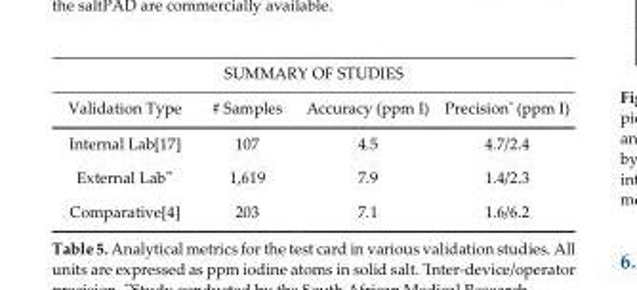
<table><tbody><tr><td colspan="4">SUMMARY OF STUDIES</td></tr><tr><td>Validation Type</td><td># Samples</td><td>Accuracy (ppm I)</td><td>Precision* (ppm I)</td></tr><tr><td>Internal Lab[17]</td><td>107</td><td>4.5</td><td>4.7/2.4</td></tr><tr><td>External Lab**</td><td>1,619</td><td>7.9</td><td>1.4/2.3</td></tr><tr><td>Comparative[4]</td><td>203</td><td>7.1</td><td>1.6/6.2</td></tr></tbody></table>